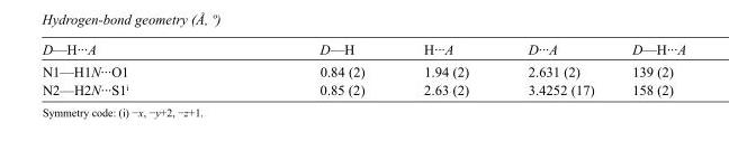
<table><tbody><tr><td>D—H···A</td><td>D—H</td><td>H···A</td><td>D···A</td><td>D—H···A</td></tr><tr><td>N1—H1N···O1</td><td>0.84 (2)</td><td>1.94 (2)</td><td>2.631 (2)</td><td>139 (2)</td></tr><tr><td>N2—H2N···S1<sup>i</sup></td><td>0.85 (2)</td><td>2.63 (2)</td><td>3.4252 (17)</td><td>158 (2)</td></tr></tbody></table>